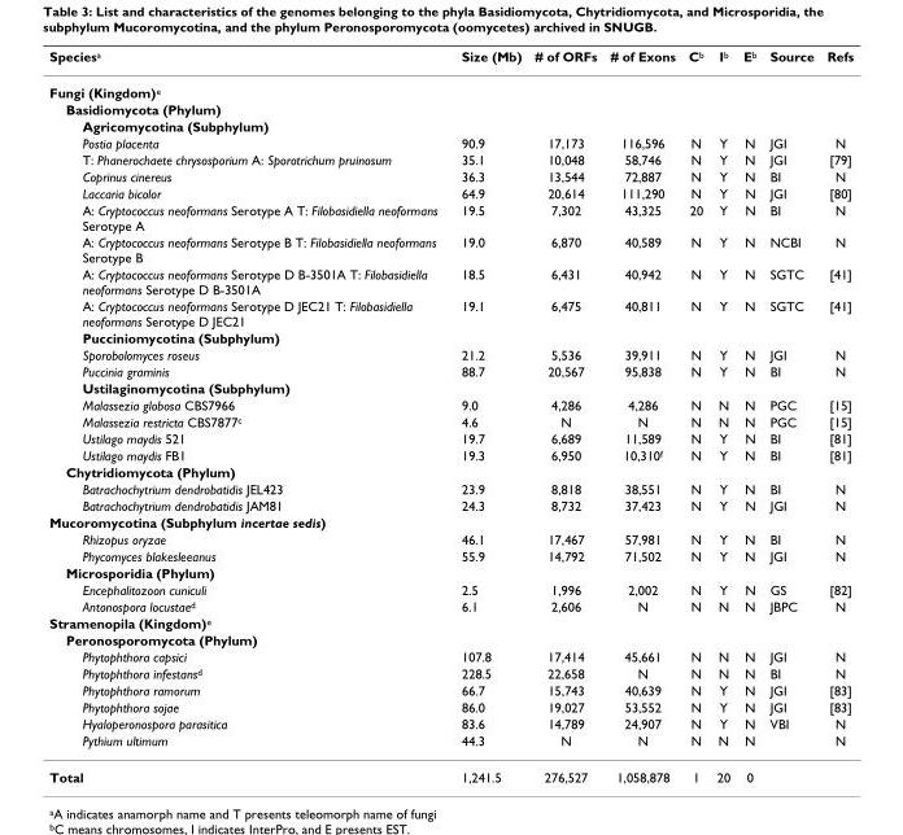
<table><thead><tr><td>Species<sup>a</sup></td><td>Size (Mb)</td><td># of ORFs</td><td># of Exons</td><td>C<sup>b</sup></td><td>I<sup>b</sup></td><td>E<sup>b</sup></td><td>Source</td><td>Refs</td></tr></thead><tbody><tr><td colspan="9">Fungi (Kingdom)<sup>e</sup></td></tr><tr><td colspan="9">Basidiomycota (Phylum)</td></tr><tr><td colspan="9">Agricomycotina (Subphylum)</td></tr><tr><td>Postia placenta</td><td>90.9</td><td>17,173</td><td>116,596</td><td>N</td><td>Y</td><td>N</td><td>JGI</td><td>N</td></tr><tr><td>T: Phanerochaete chrysosporium A: Sporotrichum pruinosum</td><td>35.1</td><td>10,048</td><td>58,746</td><td>N</td><td>Y</td><td>N</td><td>JGI</td><td>[79]</td></tr><tr><td>Coprinus cinereus</td><td>36.3</td><td>13,544</td><td>72,887</td><td>N</td><td>Y</td><td>N</td><td>BI</td><td>N</td></tr><tr><td>Laccaria bicolor</td><td>64.9</td><td>20,614</td><td>111,290</td><td>N</td><td>Y</td><td>N</td><td>JGI</td><td>[80]</td></tr><tr><td>A: Cryptococcus neoformans Serotype A T: Filobasidiella neoformans Serotype A</td><td>19.5</td><td>7,302</td><td>43,325</td><td>20</td><td>Y</td><td>N</td><td>BI</td><td>N</td></tr><tr><td>A: Cryptococcus neoformans Serotype B T: Filobasidiella neoformans Serotype B</td><td>19.0</td><td>6,870</td><td>40,589</td><td>N</td><td>Y</td><td>N</td><td>NCBI</td><td>N</td></tr><tr><td>A: Cryptococcus neoformans Serotype D B-3501A T: Filobasidiella neoformans Serotype D B-3501A</td><td>18.5</td><td>6,431</td><td>40,942</td><td>N</td><td>Y</td><td>N</td><td>SGTC</td><td>[41]</td></tr><tr><td>A: Cryptococcus neoformans Serotype D JEC21 T: Filobasidiella neoformans Serotype D JEC21</td><td>19.1</td><td>6,475</td><td>40,811</td><td>N</td><td>Y</td><td>N</td><td>SGTC</td><td>[41]</td></tr><tr><td colspan="9">Pucciniomycotina (Subphylum)</td></tr><tr><td>Sporobolomyces roseus</td><td>21.2</td><td>5,536</td><td>39,911</td><td>N</td><td>Y</td><td>N</td><td>JGI</td><td>N</td></tr><tr><td>Puccinia graminis</td><td>88.7</td><td>20,567</td><td>95,838</td><td>N</td><td>Y</td><td>N</td><td>BI</td><td>N</td></tr><tr><td colspan="9">Ustilaginomycotina (Subphylum)</td></tr><tr><td>Malassezia globosa CBS7966</td><td>9.0</td><td>4,286</td><td>4,286</td><td>N</td><td>N</td><td>N</td><td>PGC</td><td>[15]</td></tr><tr><td>Malassezia restricta CBS7877<sup>c</sup></td><td>4.6</td><td>N</td><td>N</td><td>N</td><td>N</td><td>N</td><td>PGC</td><td>[15]</td></tr><tr><td>Ustilago maydis 521</td><td>19.7</td><td>6,689</td><td>11,589</td><td>N</td><td>Y</td><td>N</td><td>BI</td><td>[81]</td></tr><tr><td>Ustilago maydis FB1</td><td>19.3</td><td>6,950</td><td>10,310<sup>f</sup></td><td>N</td><td>Y</td><td>N</td><td>BI</td><td>[81]</td></tr><tr><td colspan="9">Chytridiomycota (Phylum)</td></tr><tr><td>Batrachochytrium dendrobatidis JEL423</td><td>23.9</td><td>8,818</td><td>38,551</td><td>N</td><td>Y</td><td>N</td><td>BI</td><td>N</td></tr><tr><td>Batrachochytrium dendrobatidis JAM81</td><td>24.3</td><td>8,732</td><td>37,423</td><td>N</td><td>Y</td><td>N</td><td>JGI</td><td>N</td></tr><tr><td colspan="9">Mucoromycotina (Subphylum incertae sedis)</td></tr><tr><td>Rhizopus oryzae</td><td>46.1</td><td>17,467</td><td>57,981</td><td>N</td><td>Y</td><td>N</td><td>BI</td><td>N</td></tr><tr><td>Phycomyces blakesleeanus</td><td>55.9</td><td>14,792</td><td>71,502</td><td>N</td><td>Y</td><td>N</td><td>JGI</td><td>N</td></tr><tr><td colspan="9">Microsporidia (Phylum)</td></tr><tr><td>Encephalitozoon cuniculi</td><td>2.5</td><td>1,996</td><td>2,002</td><td>N</td><td>Y</td><td>N</td><td>GS</td><td>[82]</td></tr><tr><td>Antonospora locustae<sup>d</sup></td><td>6.1</td><td>2,606</td><td>N</td><td>N</td><td>N</td><td>N</td><td>JBPC</td><td>N</td></tr><tr><td colspan="9">Stramenopila (Kingdom)<sup>e</sup></td></tr><tr><td colspan="9">Peronosporomycota (Phylum)</td></tr><tr><td>Phytophthora capsici</td><td>107.8</td><td>17,414</td><td>45,661</td><td>N</td><td>N</td><td>N</td><td>JGI</td><td>N</td></tr><tr><td>Phytophthora infestans<sup>d</sup></td><td>228.5</td><td>22,658</td><td>N</td><td>N</td><td>N</td><td>N</td><td>BI</td><td>N</td></tr><tr><td>Phytophthora ramorum</td><td>66.7</td><td>15,743</td><td>40,639</td><td>N</td><td>Y</td><td>N</td><td>JGI</td><td>[83]</td></tr><tr><td>Phytophthora sojae</td><td>86.0</td><td>19,027</td><td>53,552</td><td>N</td><td>Y</td><td>N</td><td>JGI</td><td>[83]</td></tr><tr><td>Hyaloperonospora parasitica</td><td>83.6</td><td>14,789</td><td>24,907</td><td>N</td><td>Y</td><td>N</td><td>VBI</td><td>N</td></tr><tr><td>Pythium ultimum</td><td>44.3</td><td>N</td><td>N</td><td>N</td><td>N</td><td>N</td><td></td><td>N</td></tr><tr><td>Total</td><td>1,241.5</td><td>276,527</td><td>1,058,878</td><td>1</td><td>20</td><td>0</td><td></td><td></td></tr></tbody></table>